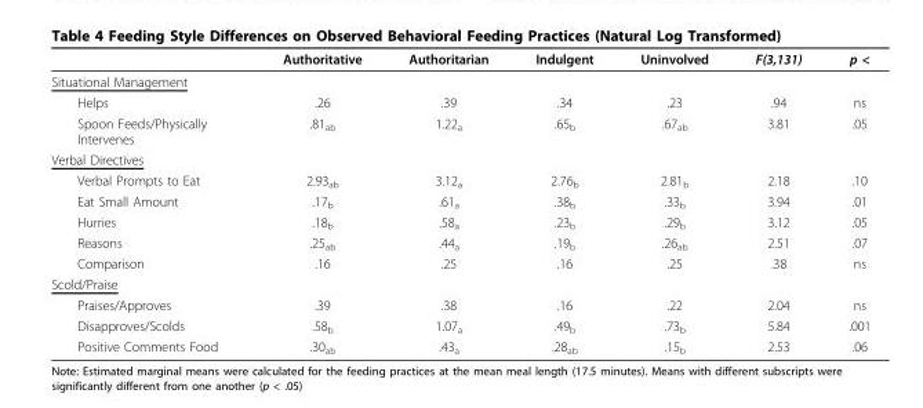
<table><thead><tr><td></td><td>Authoritative</td><td>Authoritarian</td><td>Indulgent</td><td>Uninvolved</td><td>F(3,131)</td><td>p &lt;</td></tr></thead><tbody><tr><td colspan="7">Situational Management</td></tr><tr><td>Helps</td><td>.26</td><td>.39</td><td>.34</td><td>.23</td><td>.94</td><td>ns</td></tr><tr><td>Spoon Feeds/Physically Intervenes</td><td>.81<sub>ab</sub></td><td>1.22<sub>a</sub></td><td>.65<sub>b</sub></td><td>.67<sub>ab</sub></td><td>3.81</td><td>.05</td></tr><tr><td colspan="7">Verbal Directives</td></tr><tr><td>Verbal Prompts to Eat</td><td>2.93<sub>ab</sub></td><td>3.12<sub>a</sub></td><td>2.76<sub>b</sub></td><td>2.81<sub>b</sub></td><td>2.18</td><td>.10</td></tr><tr><td>Eat Small Amount</td><td>.17<sub>b</sub></td><td>.61<sub>a</sub></td><td>.38<sub>b</sub></td><td>.33<sub>b</sub></td><td>3.94</td><td>.01</td></tr><tr><td>Hurries</td><td>.18<sub>b</sub></td><td>.58<sub>a</sub></td><td>.23<sub>b</sub></td><td>.29<sub>b</sub></td><td>3.12</td><td>.05</td></tr><tr><td>Reasons</td><td>.25<sub>ab</sub></td><td>.44<sub>a</sub></td><td>.19<sub>b</sub></td><td>.26<sub>ab</sub></td><td>2.51</td><td>.07</td></tr><tr><td>Comparison</td><td>.16</td><td>.25</td><td>.16</td><td>.25</td><td>.38</td><td>ns</td></tr><tr><td colspan="7">Scold/Praise</td></tr><tr><td>Praises/Approves</td><td>.39</td><td>.38</td><td>.16</td><td>.22</td><td>2.04</td><td>ns</td></tr><tr><td>Disapproves/Scolds</td><td>.58<sub>b</sub></td><td>1.07<sub>a</sub></td><td>.49<sub>b</sub></td><td>.73<sub>b</sub></td><td>5.84</td><td>.001</td></tr><tr><td>Positive Comments Food</td><td>.30<sub>ab</sub></td><td>.43<sub>a</sub></td><td>.28<sub>ab</sub></td><td>.15<sub>b</sub></td><td>2.53</td><td>.06</td></tr></tbody></table>